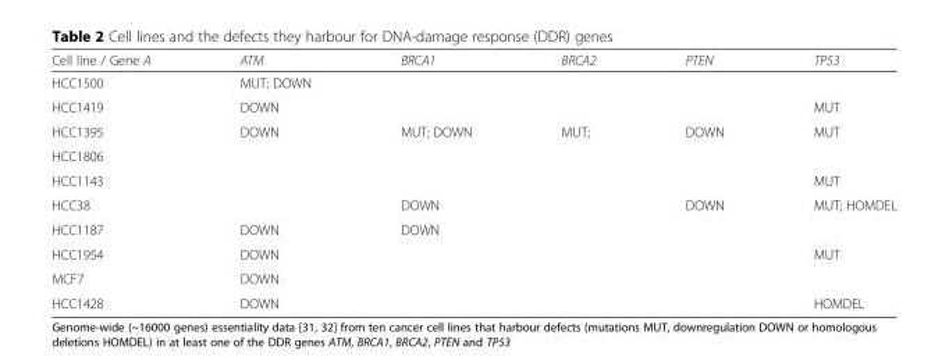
<table><thead><tr><td>Cell line / Gene A</td><td>ATM</td><td>BRCA1</td><td>BRCA2</td><td>PTEN</td><td>TP53</td></tr></thead><tbody><tr><td>HCC1500</td><td>MUT; DOWN</td><td></td><td></td><td></td><td></td></tr><tr><td>HCC1419</td><td>DOWN</td><td></td><td></td><td></td><td>MUT</td></tr><tr><td>HCC1395</td><td>DOWN</td><td>MUT; DOWN</td><td>MUT;</td><td>DOWN</td><td>MUT</td></tr><tr><td colspan="6">HCC1806</td></tr><tr><td>HCC1143</td><td></td><td></td><td></td><td></td><td>MUT</td></tr><tr><td>HCC38</td><td></td><td>DOWN</td><td></td><td>DOWN</td><td>MUT; HOMDEL</td></tr><tr><td>HCC1187</td><td>DOWN</td><td>DOWN</td><td></td><td></td><td></td></tr><tr><td>HCC1954</td><td>DOWN</td><td></td><td></td><td></td><td>MUT</td></tr><tr><td>MCF7</td><td>DOWN</td><td></td><td></td><td></td><td></td></tr><tr><td>HCC1428</td><td>DOWN</td><td></td><td></td><td></td><td>HOMDEL</td></tr></tbody></table>